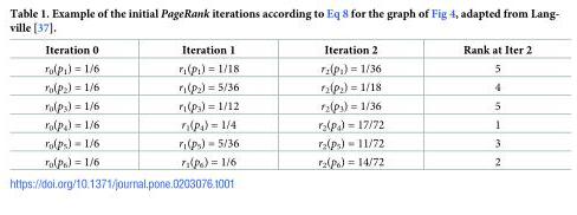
<table><thead><tr><td>Iteration 0</td><td>Iteration 1</td><td>Iteration 2</td><td>Rank at Iter 2</td></tr></thead><tbody><tr><td>r<sub>0</sub>(p<sub>1</sub>) = 1/6</td><td>r<sub>1</sub>(p<sub>1</sub>) = 1/18</td><td>r<sub>2</sub>(p<sub>1</sub>) = 1/36</td><td>5</td></tr><tr><td>r<sub>0</sub>(p<sub>2</sub>) = 1/6</td><td>r<sub>1</sub>(p<sub>2</sub>) = 5/36</td><td>r<sub>2</sub>(p<sub>2</sub>) = 1/18</td><td>4</td></tr><tr><td>r<sub>0</sub>(p<sub>3</sub>) = 1/6</td><td>r<sub>1</sub>(p<sub>3</sub>) = 1/12</td><td>r<sub>2</sub>(p<sub>3</sub>) = 1/36</td><td>5</td></tr><tr><td>r<sub>0</sub>(p<sub>4</sub>) = 1/6</td><td>r<sub>1</sub>(p<sub>4</sub>) = 1/4</td><td>r<sub>2</sub>(p<sub>4</sub>) = 17/72</td><td>1</td></tr><tr><td>r<sub>0</sub>(p<sub>5</sub>) = 1/6</td><td>r<sub>1</sub>(p<sub>5</sub>) = 5/36</td><td>r<sub>2</sub>(p<sub>5</sub>) = 11/72</td><td>3</td></tr><tr><td>r<sub>0</sub>(p<sub>6</sub>) = 1/6</td><td>r<sub>1</sub>(p<sub>6</sub>) = 1/6</td><td>r<sub>2</sub>(p<sub>6</sub>) = 14/72</td><td>2</td></tr></tbody></table>